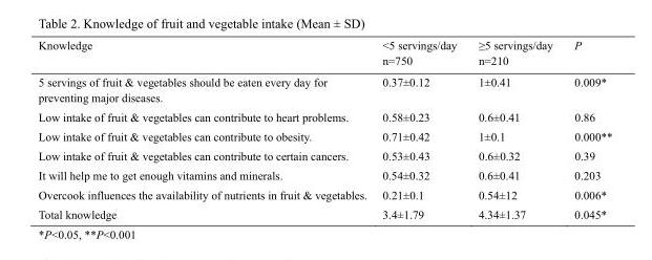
<table><thead><tr><td>Knowledge</td><td>&lt;5 servings/day n=750</td><td>≥5 servings/day n=210</td><td>P</td></tr></thead><tbody><tr><td>5 servings of fruit &amp; vegetables should be eaten every day for preventing major diseases.</td><td>0.37±0.12</td><td>1±0.41</td><td>0.009*</td></tr><tr><td>Low intake of fruit &amp; vegetables can contribute to heart problems.</td><td>0.58±0.23</td><td>0.6±0.41</td><td>0.86</td></tr><tr><td>Low intake of fruit &amp; vegetables can contribute to obesity.</td><td>0.71±0.42</td><td>1±0.1</td><td>0.000**</td></tr><tr><td>Low intake of fruit &amp; vegetables can contribute to certain cancers.</td><td>0.53±0.43</td><td>0.6±0.32</td><td>0.39</td></tr><tr><td>It will help me to get enough vitamins and minerals.</td><td>0.54±0.32</td><td>0.6±0.41</td><td>0.203</td></tr><tr><td>Overcook influences the availability of nutrients in fruit &amp; vegetables.</td><td>0.21±0.1</td><td>0.54±12</td><td>0.006*</td></tr><tr><td>Total knowledge</td><td>3.4±1.79</td><td>4.34±1.37</td><td>0.045*</td></tr></tbody></table>